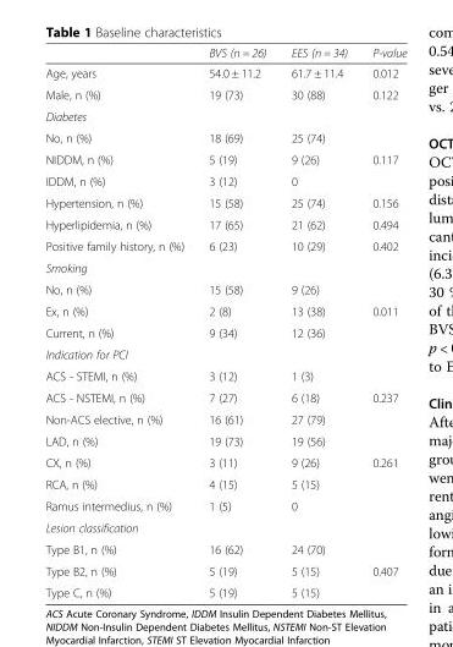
<table><thead><tr><td></td><td>BVS (n = 26)</td><td>EES (n = 34)</td><td>P-value</td></tr></thead><tbody><tr><td>Age, years</td><td>54.0 ± 11.2</td><td>61.7 ± 11.4</td><td>0.012</td></tr><tr><td>Male, n (%)</td><td>19 (73)</td><td>30 (88)</td><td>0.122</td></tr><tr><td colspan="4">Diabetes</td></tr><tr><td>No, n (%)</td><td>18 (69)</td><td>25 (74)</td><td></td></tr><tr><td>NIDDM, n (%)</td><td>5 (19)</td><td>9 (26)</td><td>0.117</td></tr><tr><td>IDDM, n (%)</td><td>3 (12)</td><td>0</td><td></td></tr><tr><td>Hypertension, n (%)</td><td>15 (58)</td><td>25 (74)</td><td>0.156</td></tr><tr><td>Hyperlipidemia, n (%)</td><td>17 (65)</td><td>21 (62)</td><td>0.494</td></tr><tr><td>Positive family history, n (%)</td><td>6 (23)</td><td>10 (29)</td><td>0.402</td></tr><tr><td colspan="4">Smoking</td></tr><tr><td>No, n (%)</td><td>15 (58)</td><td>9 (26)</td><td></td></tr><tr><td>Ex, n (%)</td><td>2 (8)</td><td>13 (38)</td><td>0.011</td></tr><tr><td>Current, n (%)</td><td>9 (34)</td><td>12 (36)</td><td></td></tr><tr><td colspan="4">Indication for PCI</td></tr><tr><td>ACS - STEMI, n (%)</td><td>3 (12)</td><td>1 (3)</td><td></td></tr><tr><td>ACS - NSTEMI, n (%)</td><td>7 (27)</td><td>6 (18)</td><td>0.237</td></tr><tr><td>Non-ACS elective, n (%)</td><td>16 (61)</td><td>27 (79)</td><td></td></tr><tr><td>LAD, n (%)</td><td>19 (73)</td><td>19 (56)</td><td></td></tr><tr><td>CX, n (%)</td><td>3 (11)</td><td>9 (26)</td><td>0.261</td></tr><tr><td>RCA, n (%)</td><td>4 (15)</td><td>5 (15)</td><td></td></tr><tr><td>Ramus intermedius, n (%)</td><td>1 (5)</td><td>0</td><td></td></tr><tr><td colspan="4">Lesion classification</td></tr><tr><td>Type B1, n (%)</td><td>16 (62)</td><td>24 (70)</td><td></td></tr><tr><td>Type B2, n (%)</td><td>5 (19)</td><td>5 (15)</td><td>0.407</td></tr><tr><td>Type C, n (%)</td><td>5 (19)</td><td>5 (15)</td><td></td></tr></tbody></table>